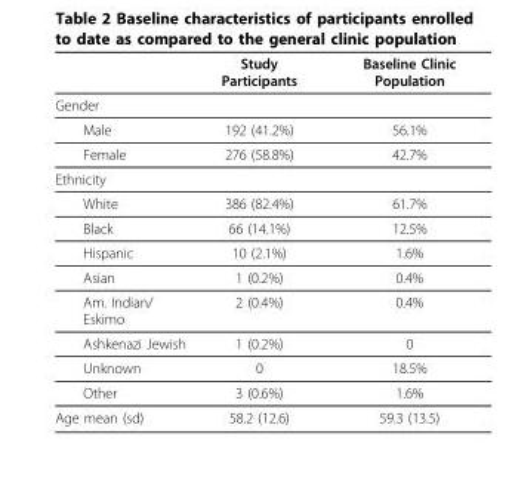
<table><thead><tr><td></td><td>Study Participants</td><td>Baseline Clinic Population</td></tr></thead><tbody><tr><td colspan="3">Gender</td></tr><tr><td>Male</td><td>192 (41.2%)</td><td>56.1%</td></tr><tr><td>Female</td><td>276 (58.8%)</td><td>42.7%</td></tr><tr><td colspan="3">Ethnicity</td></tr><tr><td>White</td><td>386 (82.4%)</td><td>61.7%</td></tr><tr><td>Black</td><td>66 (14.1%)</td><td>12.5%</td></tr><tr><td>Hispanic</td><td>10 (2.1%)</td><td>1.6%</td></tr><tr><td>Asian</td><td>1 (0.2%)</td><td>0.4%</td></tr><tr><td>Am. Indian/ Eskimo</td><td>2 (0.4%)</td><td>0.4%</td></tr><tr><td>Ashkenazi Jewish</td><td>1 (0.2%)</td><td>0</td></tr><tr><td>Unknown</td><td>0</td><td>18.5%</td></tr><tr><td>Other</td><td>3 (0.6%)</td><td>1.6%</td></tr><tr><td>Age mean (sd)</td><td>58.2 (12.6)</td><td>59.3 (13.5)</td></tr></tbody></table>